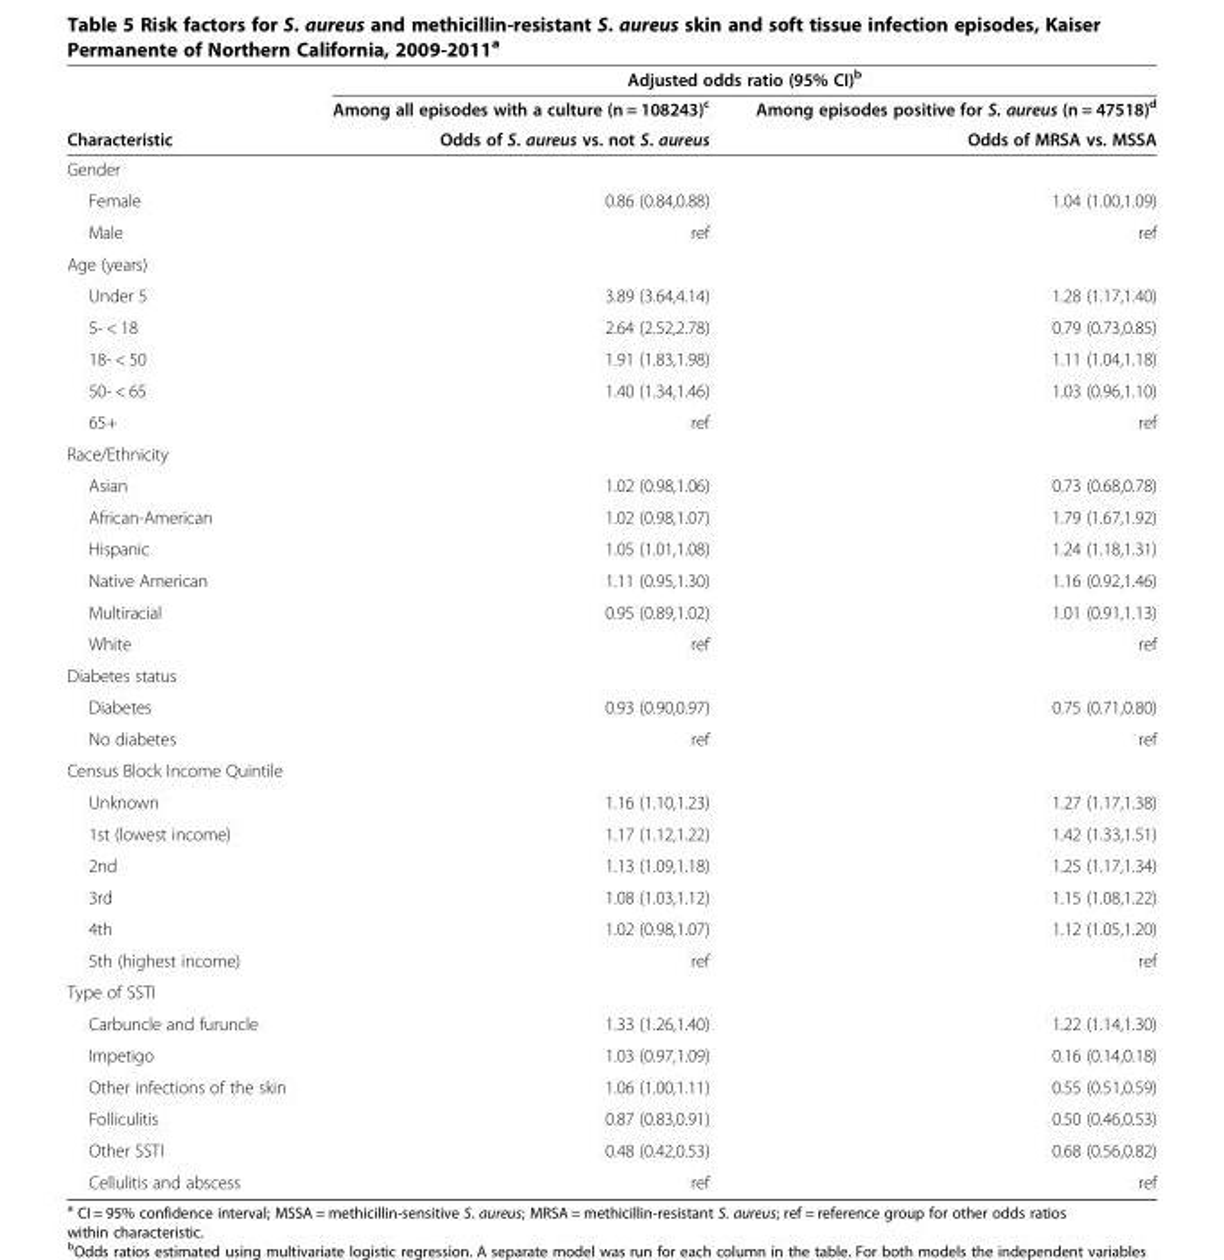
<table><thead><tr><td rowspan="3">Characteristic</td><td colspan="2">Adjusted odds ratio (95% CI)<sup>b</sup></td></tr><tr><td rowspan="2">Among all episodes with a culture (n = 108243)<sup>c</sup> Odds of S. aureus vs. not S. aureus</td><td rowspan="2">Among episodes positive for S. aureus (n = 47518)<sup>d</sup> Odds of MRSA vs. MSSA</td></tr><tr></tr></thead><tbody><tr><td colspan="3">Gender</td></tr><tr><td>Female</td><td>0.86 (0.84,0.88)</td><td>1.04 (1.00,1.09)</td></tr><tr><td>Male</td><td>ref</td><td>ref</td></tr><tr><td colspan="3">Age (years)</td></tr><tr><td>Under 5</td><td>3.89 (3.64,4.14)</td><td>1.28 (1.17,1.40)</td></tr><tr><td>5- &lt; 18</td><td>2.64 (2.52,2.78)</td><td>0.79 (0.73,0.85)</td></tr><tr><td>18- &lt; 50</td><td>1.91 (1.83,1.98)</td><td>1.11 (1.04,1.18)</td></tr><tr><td>50- &lt; 65</td><td>1.40 (1.34,1.46)</td><td>1.03 (0.96,1.10)</td></tr><tr><td>65+</td><td>ref</td><td>ref</td></tr><tr><td colspan="3">Race/Ethnicity</td></tr><tr><td>Asian</td><td>1.02 (0.98,1.06)</td><td>0.73 (0.68,0.78)</td></tr><tr><td>African-American</td><td>1.02 (0.98,1.07)</td><td>1.79 (1.67,1.92)</td></tr><tr><td>Hispanic</td><td>1.05 (1.01,1.08)</td><td>1.24 (1.18,1.31)</td></tr><tr><td>Native American</td><td>1.11 (0.95,1.30)</td><td>1.16 (0.92,1.46)</td></tr><tr><td>Multiracial</td><td>0.95 (0.89,1.02)</td><td>1.01 (0.91,1.13)</td></tr><tr><td>White</td><td>ref</td><td>ref</td></tr><tr><td colspan="3">Diabetes status</td></tr><tr><td>Diabetes</td><td>0.93 (0.90,0.97)</td><td>0.75 (0.71,0.80)</td></tr><tr><td>No diabetes</td><td>ref</td><td>ref</td></tr><tr><td colspan="3">Census Block Income Quintile</td></tr><tr><td>Unknown</td><td>1.16 (1.10,1.23)</td><td>1.27 (1.17,1.38)</td></tr><tr><td>1st (lowest income)</td><td>1.17 (1.12,1.22)</td><td>1.42 (1.33,1.51)</td></tr><tr><td>2nd</td><td>1.13 (1.09,1.18)</td><td>1.25 (1.17,1.34)</td></tr><tr><td>3rd</td><td>1.08 (1.03,1.12)</td><td>1.15 (1.08,1.22)</td></tr><tr><td>4th</td><td>1.02 (0.98,1.07)</td><td>1.12 (1.05,1.20)</td></tr><tr><td>5th (highest income)</td><td>ref</td><td>ref</td></tr><tr><td colspan="3">Type of SSTI</td></tr><tr><td>Carbuncle and furuncle</td><td>1.33 (1.26,1.40)</td><td>1.22 (1.14,1.30)</td></tr><tr><td>Impetigo</td><td>1.03 (0.97,1.09)</td><td>0.16 (0.14,0.18)</td></tr><tr><td>Other infections of the skin</td><td>1.06 (1.00,1.11)</td><td>0.55 (0.51,0.59)</td></tr><tr><td>Folliculitis</td><td>0.87 (0.83,0.91)</td><td>0.50 (0.46,0.53)</td></tr><tr><td>Other SSTI</td><td>0.48 (0.42,0.53)</td><td>0.68 (0.56,0.82)</td></tr><tr><td>Cellulitis and abscess</td><td>ref</td><td>ref</td></tr></tbody></table>